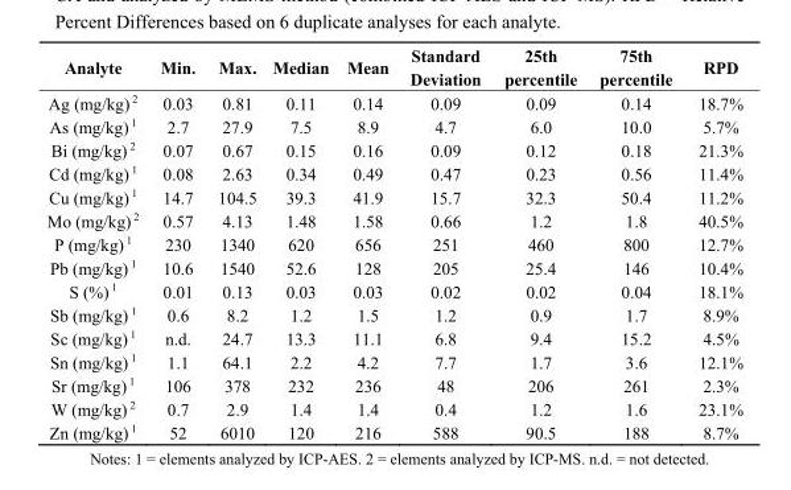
<table><thead><tr><td>Analyte</td><td>Min.</td><td>Max.</td><td>Median</td><td>Mean</td><td>Standard Deviation</td><td>25th percentile</td><td>75th percentile</td><td>RPD</td></tr></thead><tbody><tr><td>Ag (mg/kg) <sup>2</sup></td><td>0.03</td><td>0.81</td><td>0.11</td><td>0.14</td><td>0.09</td><td>0.09</td><td>0.14</td><td>18.7%</td></tr><tr><td>As (mg/kg) <sup>1</sup></td><td>2.7</td><td>27.9</td><td>7.5</td><td>8.9</td><td>4.7</td><td>6.0</td><td>10.0</td><td>5.7%</td></tr><tr><td>Bi (mg/kg) <sup>2</sup></td><td>0.07</td><td>0.67</td><td>0.15</td><td>0.16</td><td>0.09</td><td>0.12</td><td>0.18</td><td>21.3%</td></tr><tr><td>Cd (mg/kg) <sup>1</sup></td><td>0.08</td><td>2.63</td><td>0.34</td><td>0.49</td><td>0.47</td><td>0.23</td><td>0.56</td><td>11.4%</td></tr><tr><td>Cu (mg/kg) <sup>1</sup></td><td>14.7</td><td>104.5</td><td>39.3</td><td>41.9</td><td>15.7</td><td>32.3</td><td>50.4</td><td>11.2%</td></tr><tr><td>Mo (mg/kg) <sup>2</sup></td><td>0.57</td><td>4.13</td><td>1.48</td><td>1.58</td><td>0.66</td><td>1.2</td><td>1.8</td><td>40.5%</td></tr><tr><td>P (mg/kg) <sup>1</sup></td><td>230</td><td>1340</td><td>620</td><td>656</td><td>251</td><td>460</td><td>800</td><td>12.7%</td></tr><tr><td>Pb (mg/kg) <sup>1</sup></td><td>10.6</td><td>1540</td><td>52.6</td><td>128</td><td>205</td><td>25.4</td><td>146</td><td>10.4%</td></tr><tr><td>S (%) <sup>1</sup></td><td>0.01</td><td>0.13</td><td>0.03</td><td>0.03</td><td>0.02</td><td>0.02</td><td>0.04</td><td>18.1%</td></tr><tr><td>Sb (mg/kg) <sup>1</sup></td><td>0.6</td><td>8.2</td><td>1.2</td><td>1.5</td><td>1.2</td><td>0.9</td><td>1.7</td><td>8.9%</td></tr><tr><td>Sc (mg/kg) <sup>1</sup></td><td>n.d.</td><td>24.7</td><td>13.3</td><td>11.1</td><td>6.8</td><td>9.4</td><td>15.2</td><td>4.5%</td></tr><tr><td>Sn (mg/kg) <sup>1</sup></td><td>1.1</td><td>64.1</td><td>2.2</td><td>4.2</td><td>7.7</td><td>1.7</td><td>3.6</td><td>12.1%</td></tr><tr><td>Sr (mg/kg) <sup>1</sup></td><td>106</td><td>378</td><td>232</td><td>236</td><td>48</td><td>206</td><td>261</td><td>2.3%</td></tr><tr><td>W (mg/kg) <sup>2</sup></td><td>0.7</td><td>2.9</td><td>1.4</td><td>1.4</td><td>0.4</td><td>1.2</td><td>1.6</td><td>23.1%</td></tr><tr><td>Zn (mg/kg) <sup>1</sup></td><td>52</td><td>6010</td><td>120</td><td>216</td><td>588</td><td>90.5</td><td>188</td><td>8.7%</td></tr></tbody></table>